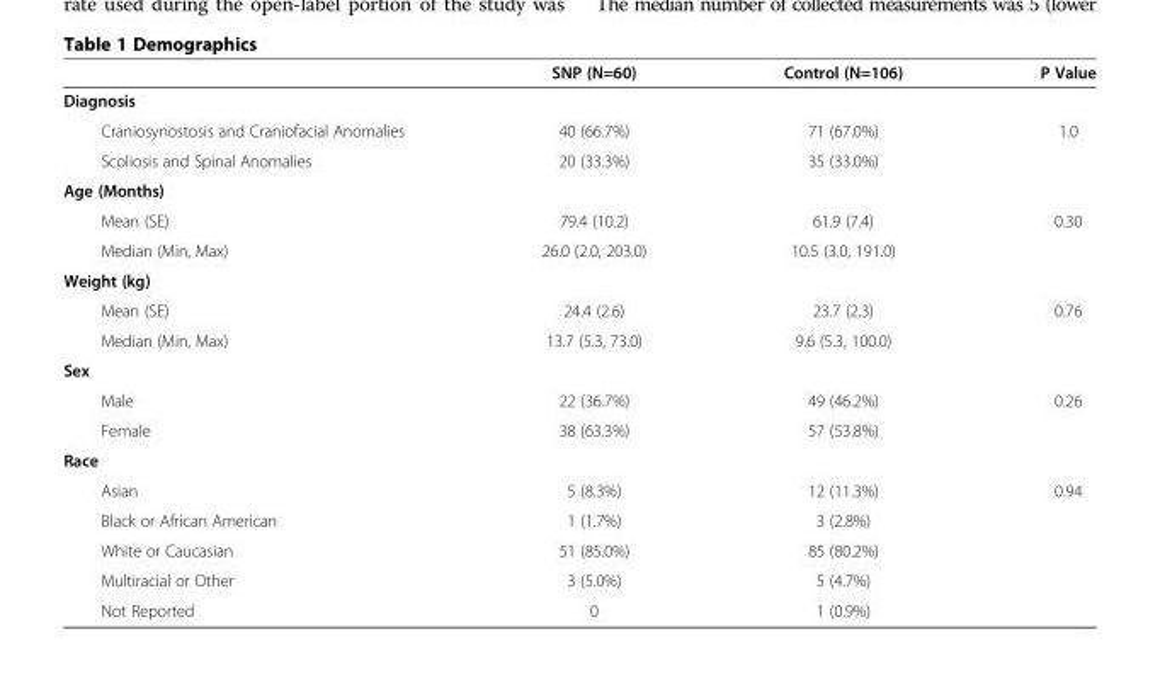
<table><thead><tr><td></td><td>SNP (N=60)</td><td>Control (N=106)</td><td>P Value</td></tr></thead><tbody><tr><td colspan="4">Diagnosis</td></tr><tr><td>Craniosynostosis and Craniofacial Anomalies</td><td>40 (66.7%)</td><td>71 (67.0%)</td><td>1.0</td></tr><tr><td>Scoliosis and Spinal Anomalies</td><td>20 (33.3%)</td><td>35 (33.0%)</td><td></td></tr><tr><td colspan="4">Age (Months)</td></tr><tr><td>Mean (SE)</td><td>79.4 (10.2)</td><td>61.9 (7.4)</td><td>0.30</td></tr><tr><td>Median (Min, Max)</td><td>26.0 (2.0, 203.0)</td><td>10.5 (3.0, 191.0)</td><td></td></tr><tr><td colspan="4">Weight (kg)</td></tr><tr><td>Mean (SE)</td><td>24.4 (2.6)</td><td>23.7 (2.3)</td><td>0.76</td></tr><tr><td>Median (Min, Max)</td><td>13.7 (5.3, 73.0)</td><td>9.6 (5.3, 100.0)</td><td></td></tr><tr><td colspan="4">Sex</td></tr><tr><td>Male</td><td>22 (36.7%)</td><td>49 (46.2%)</td><td>0.26</td></tr><tr><td>Female</td><td>38 (63.3%)</td><td>57 (53.8%)</td><td></td></tr><tr><td colspan="4">Race</td></tr><tr><td>Asian</td><td>5 (8.3%)</td><td>12 (11.3%)</td><td>0.94</td></tr><tr><td>Black or African American</td><td>1 (1.7%)</td><td>3 (2.8%)</td><td></td></tr><tr><td>White or Caucasian</td><td>51 (85.0%)</td><td>85 (80.2%)</td><td></td></tr><tr><td>Multiracial or Other</td><td>3 (5.0%)</td><td>5 (4.7%)</td><td></td></tr><tr><td>Not Reported</td><td>0</td><td>1 (0.9%)</td><td></td></tr></tbody></table>